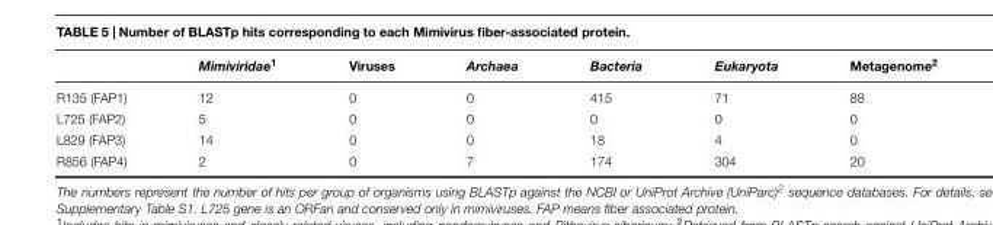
<table><thead><tr><td></td><td>Mimiviridae<sup>1</sup></td><td>Viruses</td><td>Archaea</td><td>Bacteria</td><td>Eukaryota</td><td>Metagenome<sup>2</sup></td></tr></thead><tbody><tr><td>R135 (FAP1)</td><td>12</td><td>0</td><td>0</td><td>415</td><td>71</td><td>88</td></tr><tr><td>L725 (FAP2)</td><td>5</td><td>0</td><td>0</td><td>0</td><td>0</td><td>0</td></tr><tr><td>L829 (FAP3)</td><td>14</td><td>0</td><td>0</td><td>18</td><td>4</td><td>0</td></tr><tr><td>R856 (FAP4)</td><td>2</td><td>0</td><td>7</td><td>174</td><td>304</td><td>20</td></tr></tbody></table>